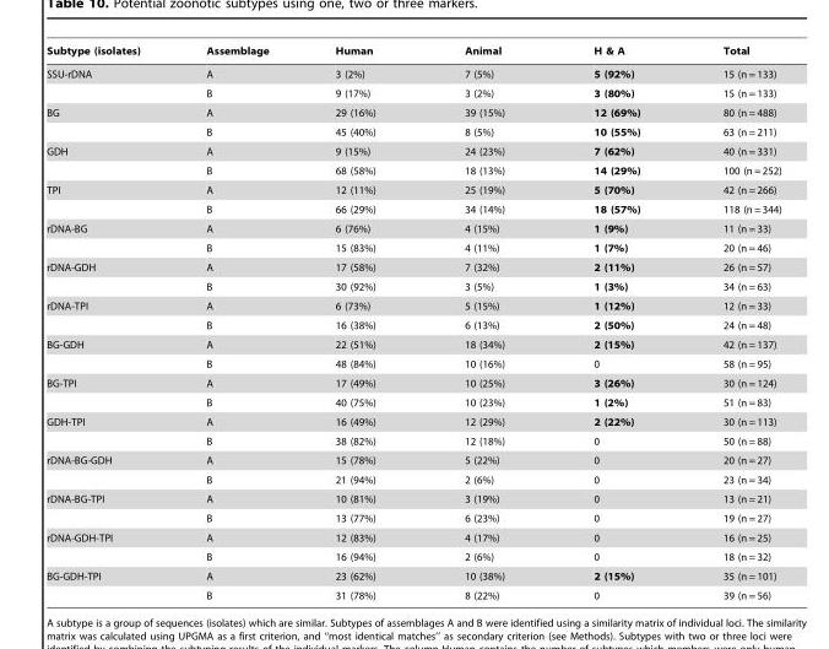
<table><thead><tr><td>Subtype (isolates)</td><td>Assemblage</td><td>Human</td><td>Animal</td><td>H &amp; A</td><td>Total</td></tr></thead><tbody><tr><td rowspan="2">SSU-rDNA</td><td>A</td><td>3 (2%)</td><td>7 (5%)</td><td>5 (92%)</td><td>15 (n = 133)</td></tr><tr><td>B</td><td>9 (17%)</td><td>3 (2%)</td><td>3 (80%)</td><td>15 (n = 133)</td></tr><tr><td rowspan="2">BG</td><td>A</td><td>29 (16%)</td><td>39 (15%)</td><td>12 (69%)</td><td>80 (n = 488)</td></tr><tr><td>B</td><td>45 (40%)</td><td>8 (5%)</td><td>10 (55%)</td><td>63 (n = 211)</td></tr><tr><td rowspan="2">GDH</td><td>A</td><td>9 (15%)</td><td>24 (23%)</td><td>7 (62%)</td><td>40 (n = 331)</td></tr><tr><td>B</td><td>68 (58%)</td><td>18 (13%)</td><td>14 (29%)</td><td>100 (n = 252)</td></tr><tr><td rowspan="2">TPI</td><td>A</td><td>12 (11%)</td><td>25 (19%)</td><td>5 (70%)</td><td>42 (n = 266)</td></tr><tr><td>B</td><td>66 (29%)</td><td>34 (14%)</td><td>18 (57%)</td><td>118 (n = 344)</td></tr><tr><td rowspan="2">rDNA-BG</td><td>A</td><td>6 (76%)</td><td>4 (15%)</td><td>1 (9%)</td><td>11 (n = 33)</td></tr><tr><td>B</td><td>15 (83%)</td><td>4 (11%)</td><td>1 (7%)</td><td>20 (n = 46)</td></tr><tr><td rowspan="2">rDNA-GDH</td><td>A</td><td>17 (58%)</td><td>7 (32%)</td><td>2 (11%)</td><td>26 (n = 57)</td></tr><tr><td>B</td><td>30 (92%)</td><td>3 (5%)</td><td>1 (3%)</td><td>34 (n = 63)</td></tr><tr><td rowspan="2">rDNA-TPI</td><td>A</td><td>6 (73%)</td><td>5 (15%)</td><td>1 (12%)</td><td>12 (n = 33)</td></tr><tr><td>B</td><td>16 (38%)</td><td>6 (13%)</td><td>2 (50%)</td><td>24 (n = 48)</td></tr><tr><td rowspan="2">BG-GDH</td><td>A</td><td>22 (51%)</td><td>18 (34%)</td><td>2 (15%)</td><td>42 (n = 137)</td></tr><tr><td>B</td><td>48 (84%)</td><td>10 (16%)</td><td>0</td><td>58 (n = 95)</td></tr><tr><td rowspan="2">BG-TPI</td><td>A</td><td>17 (49%)</td><td>10 (25%)</td><td>3 (26%)</td><td>30 (n = 124)</td></tr><tr><td>B</td><td>40 (75%)</td><td>10 (23%)</td><td>1 (2%)</td><td>51 (n = 83)</td></tr><tr><td rowspan="2">GDH-TPI</td><td>A</td><td>16 (49%)</td><td>12 (29%)</td><td>2 (22%)</td><td>30 (n = 113)</td></tr><tr><td>B</td><td>38 (82%)</td><td>12 (18%)</td><td>0</td><td>50 (n = 88)</td></tr><tr><td rowspan="2">rDNA-BG-GDH</td><td>A</td><td>15 (78%)</td><td>5 (22%)</td><td>0</td><td>20 (n = 27)</td></tr><tr><td>B</td><td>21 (94%)</td><td>2 (6%)</td><td>0</td><td>23 (n = 34)</td></tr><tr><td rowspan="2">rDNA-BG-TPI</td><td>A</td><td>10 (81%)</td><td>3 (19%)</td><td>0</td><td>13 (n = 21)</td></tr><tr><td>B</td><td>13 (77%)</td><td>6 (23%)</td><td>0</td><td>19 (n = 27)</td></tr><tr><td rowspan="2">rDNA-GDH-TPI</td><td>A</td><td>12 (83%)</td><td>4 (17%)</td><td>0</td><td>16 (n = 25)</td></tr><tr><td>B</td><td>16 (94%)</td><td>2 (6%)</td><td>0</td><td>18 (n = 32)</td></tr><tr><td rowspan="2">BG-GDH-TPI</td><td>A</td><td>23 (62%)</td><td>10 (38%)</td><td>2 (15%)</td><td>35 (n = 101)</td></tr><tr><td>B</td><td>31 (78%)</td><td>8 (22%)</td><td>0</td><td>39 (n = 56)</td></tr></tbody></table>